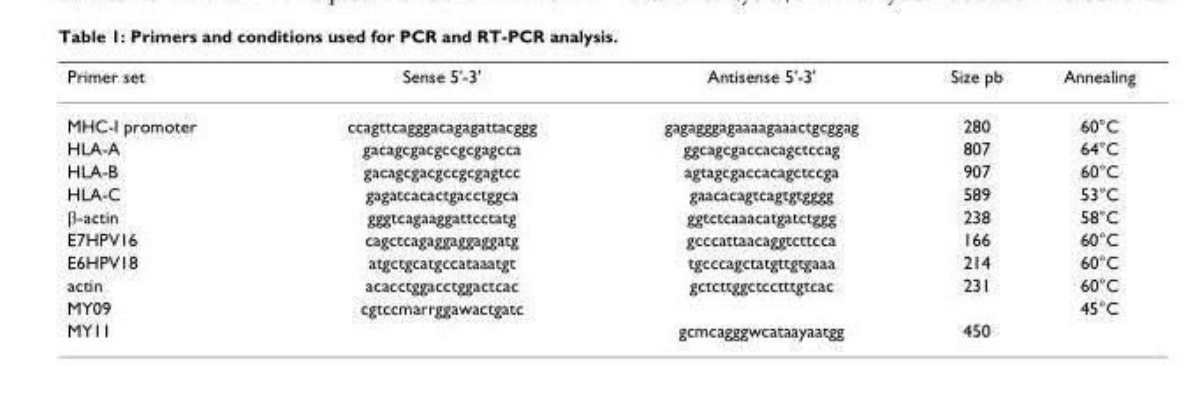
<table><thead><tr><td>Primer set</td><td>Sense 5&#x27;-3&#x27;</td><td>Antisense 5&#x27;-3&#x27;</td><td>Size pb</td><td>Annealing</td></tr></thead><tbody><tr><td>MHC-I promoter</td><td>ccagttcagggacagagattacggg</td><td>gagagggagaaaagaaactgcggag</td><td>280</td><td>60°C</td></tr><tr><td>HLA-A</td><td>gacagcgacgccgcgagcca</td><td>ggcagcgaccacagctccag</td><td>807</td><td>64°C</td></tr><tr><td>HLA-B</td><td>gacagcgacgccgcgagtcc</td><td>agtagcgaccacagctccga</td><td>907</td><td>60°C</td></tr><tr><td>HLA-C</td><td>gagatcacactgacctggca</td><td>gaacacagtcagtgtgggg</td><td>589</td><td>53°C</td></tr><tr><td>β-actin</td><td>gggtcagaaggattcctatg</td><td>ggtctcaaacatgatctggg</td><td>238</td><td>58°C</td></tr><tr><td>E7HPV16</td><td>cagctcagaggaggaggatg</td><td>gcccattaacaggtcttcca</td><td>166</td><td>60°C</td></tr><tr><td>E6HPV18</td><td>atgctgcatgccataaatgt</td><td>tgcccagctatgttgtgaaa</td><td>214</td><td>60°C</td></tr><tr><td>actin</td><td>acacctggacctggactcac</td><td>gctcttggctcctttgtcac</td><td>231</td><td>60°C</td></tr><tr><td>MY09</td><td>cgtccmarrggawactgatc</td><td></td><td></td><td>45°C</td></tr><tr><td>MY11</td><td></td><td>gcmcagggwcataayaatgg</td><td>450</td><td></td></tr></tbody></table>